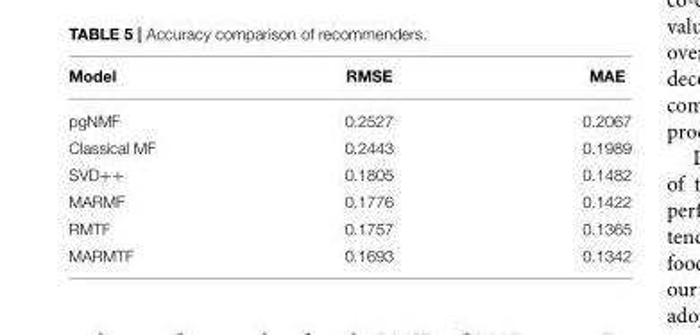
<table><thead><tr><td>Model</td><td>RMSE</td><td>MAE</td></tr></thead><tbody><tr><td>pgNMF</td><td>0.2527</td><td>0.2067</td></tr><tr><td>Classical MF</td><td>0.2443</td><td>0.1989</td></tr><tr><td>SVD++</td><td>0.1805</td><td>0.1482</td></tr><tr><td>MARMF</td><td>0.1776</td><td>0.1422</td></tr><tr><td>RMTF</td><td>0.1757</td><td>0.1365</td></tr><tr><td>MARMTF</td><td>0.1693</td><td>0.1342</td></tr></tbody></table>